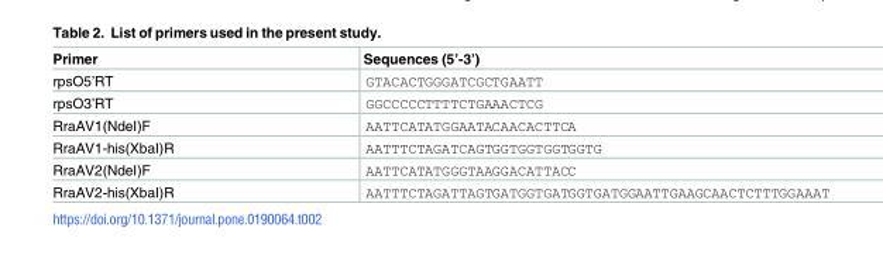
<table><thead><tr><td>Primer</td><td>Sequences (5’-3’)</td></tr></thead><tbody><tr><td>rpsO5’RT</td><td>GTACACTGGGATCGCTGAATT</td></tr><tr><td>rpsO3’RT</td><td>GGCCCCCTTTTCTGAAACTCG</td></tr><tr><td>RraAV1(NdeI)F</td><td>AATTCATATGGAATACAACACTTCA</td></tr><tr><td>RraAV1-his(XbaI)R</td><td>AATTTCTAGATCAGTGGTGGTGGTGGTG</td></tr><tr><td>RraAV2(NdeI)F</td><td>AATTCATATGGGTAAGGACATTACC</td></tr><tr><td>RraAV2-his(XbaI)R</td><td>AATTTCTAGATTAGTGATGGTGATGGTGATGGAATTGAAGCAACTCTTTGGAAAT</td></tr></tbody></table>